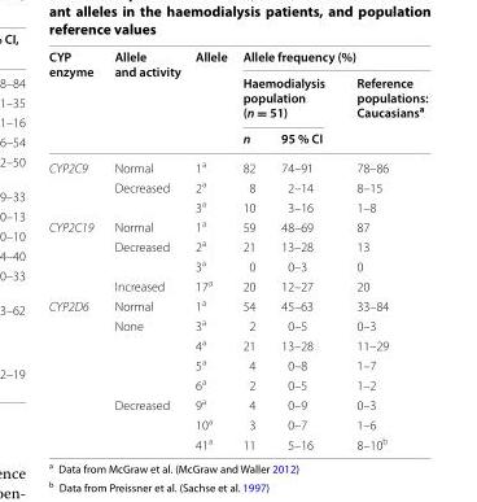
<table><thead><tr><td rowspan="3">CYP enzyme</td><td rowspan="3">Allele and activity</td><td rowspan="3">Allele</td><td colspan="3">Allele frequency (%)</td></tr><tr><td colspan="2">Haemodialysis population (n = 51)</td><td rowspan="2">Reference populations: Caucasians<sup>a</sup></td></tr><tr><td>n</td><td>95 % CI</td></tr></thead><tbody><tr><td rowspan="3">CYP2C9</td><td>Normal</td><td>1<sup>a</sup></td><td>82</td><td>74–91</td><td>78–86</td></tr><tr><td>Decreased</td><td>2<sup>a</sup></td><td>8</td><td>2–14</td><td>8–15</td></tr><tr><td></td><td>3<sup>a</sup></td><td>10</td><td>3–16</td><td>1–8</td></tr><tr><td rowspan="4">CYP2C19</td><td>Normal</td><td>1<sup>a</sup></td><td>59</td><td>48–69</td><td>87</td></tr><tr><td>Decreased</td><td>2<sup>a</sup></td><td>21</td><td>13–28</td><td>13</td></tr><tr><td></td><td>3<sup>a</sup></td><td>0</td><td>0–3</td><td>0</td></tr><tr><td>Increased</td><td>17<sup>a</sup></td><td>20</td><td>12–27</td><td>20</td></tr><tr><td rowspan="8">CYP2D6</td><td>Normal</td><td>1<sup>a</sup></td><td>54</td><td>45–63</td><td>33–84</td></tr><tr><td>None</td><td>3<sup>a</sup></td><td>2</td><td>0–5</td><td>0–3</td></tr><tr><td></td><td>4<sup>a</sup></td><td>21</td><td>13–28</td><td>11–29</td></tr><tr><td></td><td>5<sup>a</sup></td><td>4</td><td>0–8</td><td>1–7</td></tr><tr><td></td><td>6<sup>a</sup></td><td>2</td><td>0–5</td><td>1–2</td></tr><tr><td>Decreased</td><td>9<sup>a</sup></td><td>4</td><td>0–9</td><td>0–3</td></tr><tr><td></td><td>10<sup>a</sup></td><td>3</td><td>0–7</td><td>1–6</td></tr><tr><td></td><td>41<sup>a</sup></td><td>11</td><td>5–16</td><td>8–10<sup>b</sup></td></tr></tbody></table>